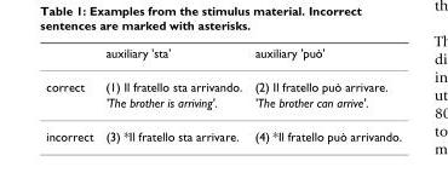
<table><thead><tr><td></td><td>auxiliary &#x27;sta&#x27;</td><td>auxiliary &#x27;può&#x27;</td></tr></thead><tbody><tr><td rowspan="2">correct</td><td>(1) Il fratello sta arrivando.</td><td>(2) Il fratello può arrivare.</td></tr><tr><td>&#x27;The brother is arriving&#x27;.</td><td>&#x27;The brother can arrive&#x27;.</td></tr><tr><td>incorrect</td><td>(3) *Il fratello sta arrivare.</td><td>(4) *Il fratello può arrivando.</td></tr></tbody></table>